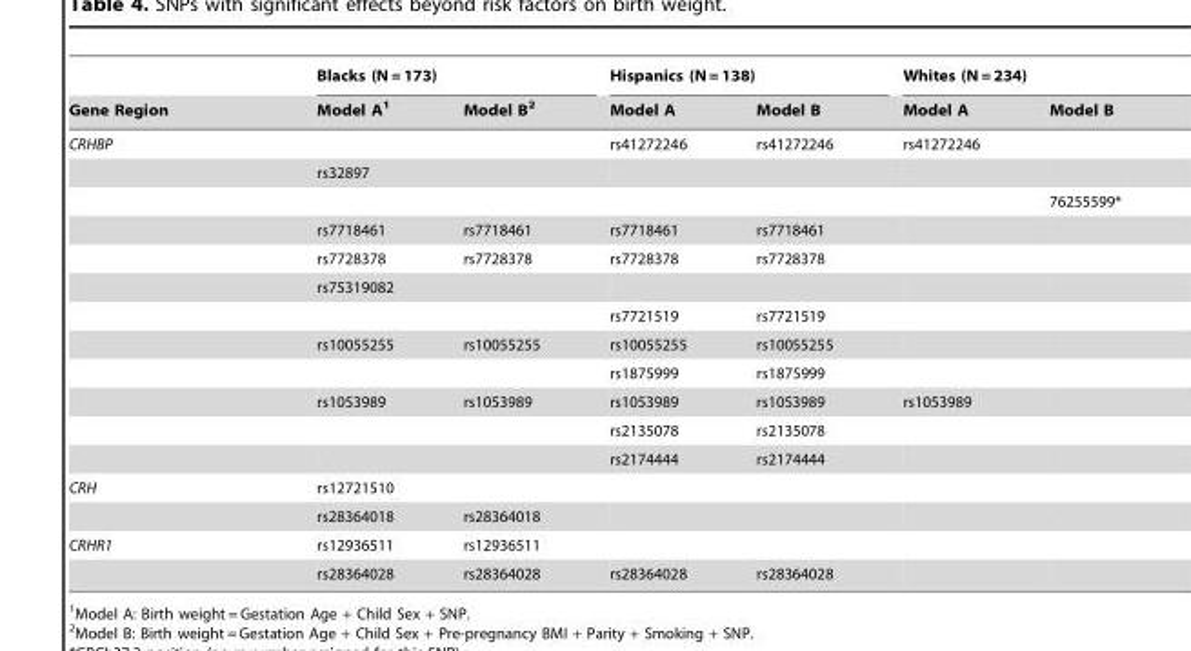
<table><thead><tr><td rowspan="2">Gene Region</td><td colspan="2">Blacks (N = 173)</td><td colspan="2">Hispanics (N = 138)</td><td colspan="2">Whites (N = 234)</td></tr><tr><td>Model A<sup>1</sup></td><td>Model B<sup>2</sup></td><td>Model A</td><td>Model B</td><td>Model A</td><td>Model B</td></tr></thead><tbody><tr><td rowspan="12">CRHBP</td><td></td><td></td><td>rs41272246</td><td>rs41272246</td><td>rs41272246</td><td></td></tr><tr><td>rs32897</td><td></td><td></td><td></td><td></td><td></td></tr><tr><td></td><td></td><td></td><td></td><td></td><td>76255599*</td></tr><tr><td>rs7718461</td><td>rs7718461</td><td>rs7718461</td><td>rs7718461</td><td></td><td></td></tr><tr><td>rs7728378</td><td>rs7728378</td><td>rs7728378</td><td>rs7728378</td><td></td><td></td></tr><tr><td>rs75319082</td><td></td><td></td><td></td><td></td><td></td></tr><tr><td></td><td></td><td>rs7721519</td><td>rs7721519</td><td></td><td></td></tr><tr><td>rs10055255</td><td>rs10055255</td><td>rs10055255</td><td>rs10055255</td><td></td><td></td></tr><tr><td></td><td></td><td>rs1875999</td><td>rs1875999</td><td></td><td></td></tr><tr><td>rs1053989</td><td>rs1053989</td><td>rs1053989</td><td>rs1053989</td><td>rs1053989</td><td></td></tr><tr><td></td><td></td><td>rs2135078</td><td>rs2135078</td><td></td><td></td></tr><tr><td></td><td></td><td>rs2174444</td><td>rs2174444</td><td></td><td></td></tr><tr><td rowspan="2">CRH</td><td>rs12721510</td><td></td><td></td><td></td><td></td><td></td></tr><tr><td>rs28364018</td><td>rs28364018</td><td></td><td></td><td></td><td></td></tr><tr><td rowspan="2">CRHR1</td><td>rs12936511</td><td>rs12936511</td><td></td><td></td><td></td><td></td></tr><tr><td>rs28364028</td><td>rs28364028</td><td>rs28364028</td><td>rs28364028</td><td></td><td></td></tr></tbody></table>